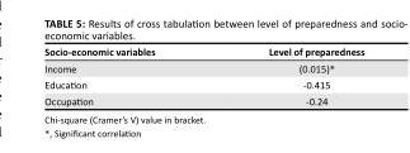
<table><thead><tr><td>Socio-economic variables</td><td>Level of preparedness</td></tr></thead><tbody><tr><td>Income</td><td>(0.015)*</td></tr><tr><td>Education</td><td>-0.415</td></tr><tr><td>Occupation</td><td>-0.24</td></tr></tbody></table>